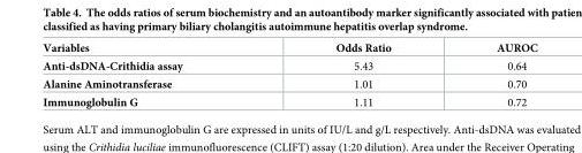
<table><thead><tr><td>Variables</td><td>Odds Ratio</td><td>AUROC</td></tr></thead><tbody><tr><td>Anti-dsDNA-Crithidia assay</td><td>5.43</td><td>0.64</td></tr><tr><td>Alanine Aminotransferase</td><td>1.01</td><td>0.70</td></tr><tr><td>Immunoglobulin G</td><td>1.11</td><td>0.72</td></tr></tbody></table>